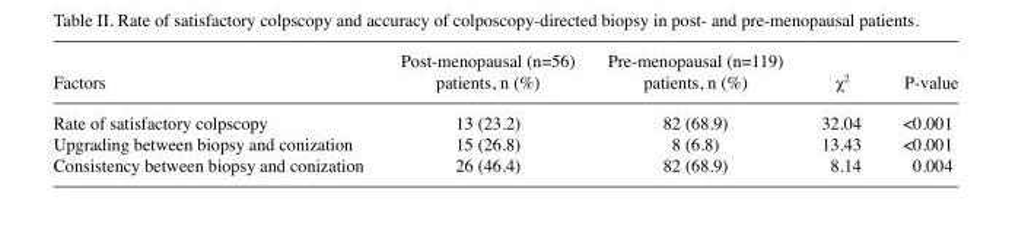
<table><thead><tr><td>Factors</td><td>Post-menopausal (n=56) patients, n (%)</td><td>Pre-menopausal (n=119) patients, n (%)</td><td>χ<sup>2</sup></td><td>P-value</td></tr></thead><tbody><tr><td>Rate of satisfactory colpscopy</td><td>13 (23.2)</td><td>82 (68.9)</td><td>32.04</td><td>&lt;0.001</td></tr><tr><td>Upgrading between biopsy and conization</td><td>15 (26.8)</td><td>8 (6.8)</td><td>13.43</td><td>&lt;0.001</td></tr><tr><td>Consistency between biopsy and conization</td><td>26 (46.4)</td><td>82 (68.9)</td><td>8.14</td><td>0.004</td></tr></tbody></table>